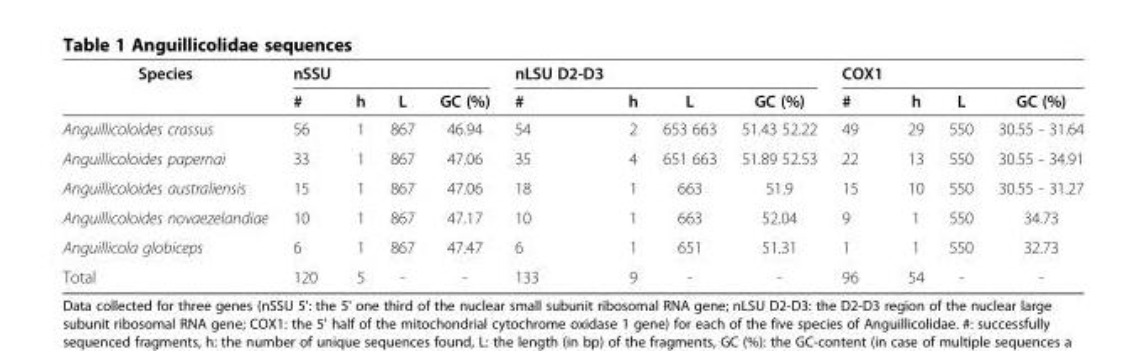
<table><thead><tr><td>Species</td><td>nSSU</td><td></td><td></td><td></td><td>nLSU D2-D3</td><td></td><td></td><td></td><td>COX1</td><td></td><td></td><td></td></tr></thead><tbody><tr><td></td><td>#</td><td>h</td><td>L</td><td>GC (%)</td><td>#</td><td>h</td><td>L</td><td>GC (%)</td><td>#</td><td>h</td><td>L</td><td>GC (%)</td></tr><tr><td>Anguillicoloides crassus</td><td>56</td><td>1</td><td>867</td><td>46.94</td><td>54</td><td>2</td><td>653 663</td><td>51.43 52.22</td><td>49</td><td>29</td><td>550</td><td>30.55 - 31.64</td></tr><tr><td>Anguillicoloides papernai</td><td>33</td><td>1</td><td>867</td><td>47.06</td><td>35</td><td>4</td><td>651 663</td><td>51.89 52.53</td><td>22</td><td>13</td><td>550</td><td>30.55 - 34.91</td></tr><tr><td>Anguillicoloides australiensis</td><td>15</td><td>1</td><td>867</td><td>47.06</td><td>18</td><td>1</td><td>663</td><td>51.9</td><td>15</td><td>10</td><td>550</td><td>30.55 - 31.27</td></tr><tr><td>Anguillicoloides novaezelandiae</td><td>10</td><td>1</td><td>867</td><td>47.17</td><td>10</td><td>1</td><td>663</td><td>52.04</td><td>9</td><td>1</td><td>550</td><td>34.73</td></tr><tr><td>Anguillicola globiceps</td><td>6</td><td>1</td><td>867</td><td>47.47</td><td>6</td><td>1</td><td>651</td><td>51.31</td><td>1</td><td>1</td><td>550</td><td>32.73</td></tr><tr><td>Total</td><td>120</td><td>5</td><td>-</td><td>-</td><td>133</td><td>9</td><td>-</td><td>-</td><td>96</td><td>54</td><td>-</td><td>-</td></tr></tbody></table>